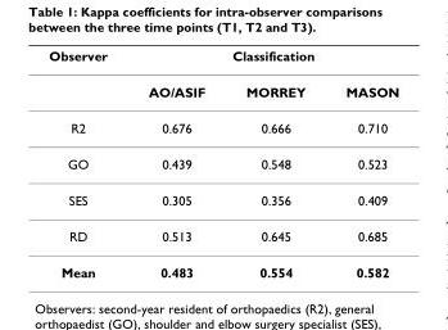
<table><thead><tr><td rowspan="2">Observer</td><td colspan="3">Classification</td></tr><tr><td>AO/ASIF</td><td>MORREY</td><td>MASON</td></tr></thead><tbody><tr><td>R2</td><td>0.676</td><td>0.666</td><td>0.710</td></tr><tr><td>GO</td><td>0.439</td><td>0.548</td><td>0.523</td></tr><tr><td>SES</td><td>0.305</td><td>0.356</td><td>0.409</td></tr><tr><td>RD</td><td>0.513</td><td>0.645</td><td>0.685</td></tr><tr><td>Mean</td><td>0.483</td><td>0.554</td><td>0.582</td></tr></tbody></table>